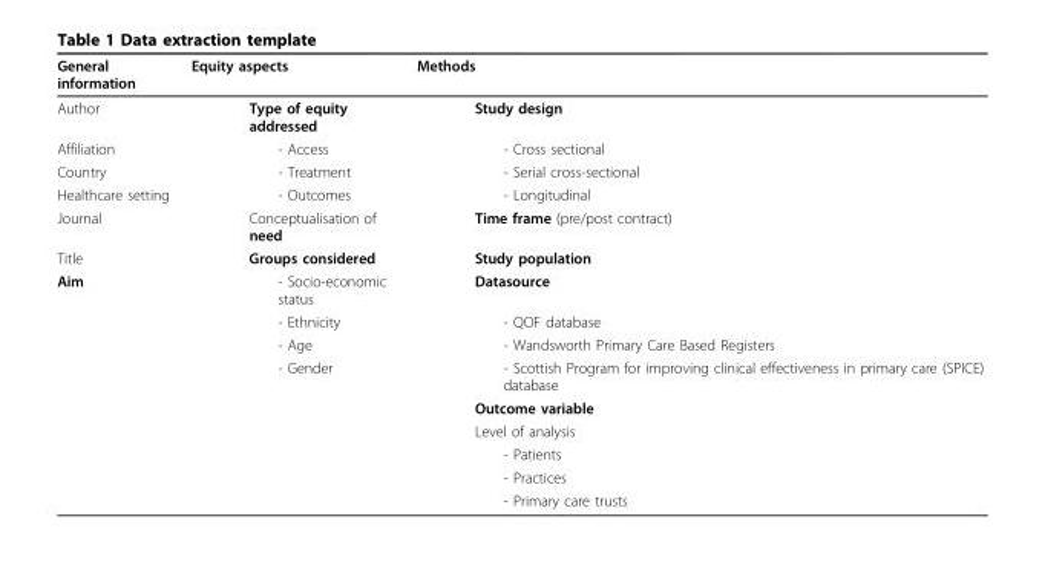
<table><thead><tr><td>General information</td><td>Equity aspects</td><td>Methods</td></tr></thead><tbody><tr><td>Author</td><td>Type of equity addressed</td><td>Study design</td></tr><tr><td>Affiliation</td><td>- Access</td><td>- Cross sectional</td></tr><tr><td>Country</td><td>- Treatment</td><td>- Serial cross-sectional</td></tr><tr><td>Healthcare setting</td><td>- Outcomes</td><td>- Longitudinal</td></tr><tr><td>Journal</td><td>Conceptualisation of need</td><td>Time frame (pre/post contract)</td></tr><tr><td>Title</td><td>Groups considered</td><td>Study population</td></tr><tr><td rowspan="9">Aim</td><td>- Socio-economic status</td><td>Datasource</td></tr><tr><td>- Ethnicity</td><td>- QOF database</td></tr><tr><td>- Age</td><td>- Wandsworth Primary Care Based Registers</td></tr><tr><td>- Gender</td><td>- Scottish Program for improving clinical effectiveness in primary care (SPICE) database</td></tr><tr><td></td><td>Outcome variable</td></tr><tr><td></td><td>Level of analysis</td></tr><tr><td></td><td>- Patients</td></tr><tr><td></td><td>- Practices</td></tr><tr><td></td><td>- Primary care trusts</td></tr></tbody></table>